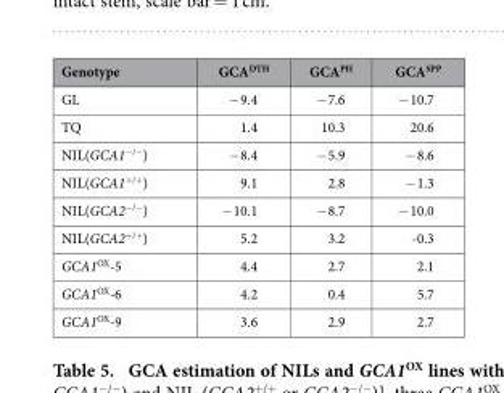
<table><thead><tr><td>Genotype</td><td>GCA<sup>DTH</sup></td><td>GCA<sup>PH</sup></td><td>GCA<sup>SPP</sup></td></tr></thead><tbody><tr><td>GL</td><td>− 9.4</td><td>− 7.6</td><td>− 10.7</td></tr><tr><td>TQ</td><td>1.4</td><td>10.3</td><td>20.6</td></tr><tr><td>NIL(GCA1<sup>−/−</sup>)</td><td>− 8.4</td><td>− 5.9</td><td>− 8.6</td></tr><tr><td>NIL(GCA1<sup>+/+</sup>)</td><td>9.1</td><td>2.8</td><td>− 1.3</td></tr><tr><td>NIL(GCA2<sup>−/−</sup>)</td><td>− 10.1</td><td>− 8.7</td><td>− 10.0</td></tr><tr><td>NIL(GCA2<sup>+/+</sup>)</td><td>5.2</td><td>3.2</td><td>-0.3</td></tr><tr><td>GCA1<sup>OX</sup>-5</td><td>4.4</td><td>2.7</td><td>2.1</td></tr><tr><td>GCA1<sup>OX</sup>-6</td><td>4.2</td><td>0.4</td><td>5.7</td></tr><tr><td>GCA1<sup>OX</sup>-9</td><td>3.6</td><td>2.9</td><td>2.7</td></tr></tbody></table>